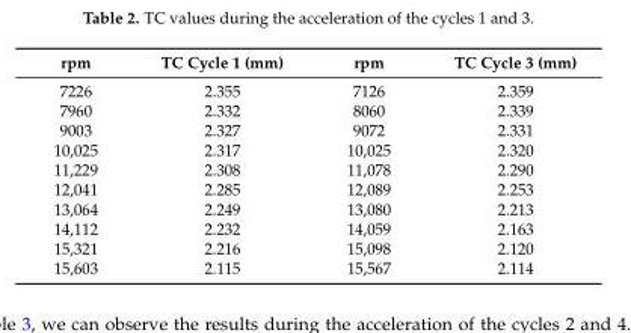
<table><thead><tr><td>rpm</td><td>TC Cycle 1 (mm)</td><td>rpm</td><td>TC Cycle 3 (mm)</td></tr></thead><tbody><tr><td>7226</td><td>2.355</td><td>7126</td><td>2.359</td></tr><tr><td>7960</td><td>2.332</td><td>8060</td><td>2.339</td></tr><tr><td>9003</td><td>2.327</td><td>9072</td><td>2.331</td></tr><tr><td>10,025</td><td>2.317</td><td>10,025</td><td>2.320</td></tr><tr><td>11,229</td><td>2.308</td><td>11,078</td><td>2.290</td></tr><tr><td>12,041</td><td>2.285</td><td>12,089</td><td>2.253</td></tr><tr><td>13,064</td><td>2.249</td><td>13,080</td><td>2.213</td></tr><tr><td>14,112</td><td>2.232</td><td>14,059</td><td>2.163</td></tr><tr><td>15,321</td><td>2.216</td><td>15,098</td><td>2.120</td></tr><tr><td>15,603</td><td>2.115</td><td>15,567</td><td>2.114</td></tr></tbody></table>